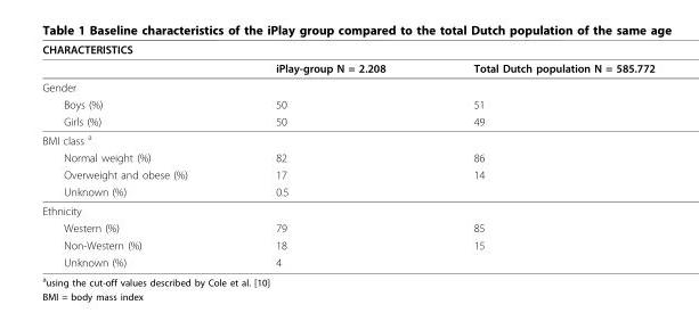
<table><thead><tr><td colspan="3">CHARACTERISTICS</td></tr><tr><td></td><td>iPlay-group N = 2.208</td><td>Total Dutch population N = 585.772</td></tr></thead><tbody><tr><td colspan="3">Gender</td></tr><tr><td>Boys (%)</td><td>50</td><td>51</td></tr><tr><td>Girls (%)</td><td>50</td><td>49</td></tr><tr><td colspan="3">BMI class <sup>a</sup></td></tr><tr><td>Normal weight (%)</td><td>82</td><td>86</td></tr><tr><td>Overweight and obese (%)</td><td>17</td><td>14</td></tr><tr><td>Unknown (%)</td><td>0.5</td><td></td></tr><tr><td colspan="3">Ethnicity</td></tr><tr><td>Western (%)</td><td>79</td><td>85</td></tr><tr><td>Non-Western (%)</td><td>18</td><td>15</td></tr><tr><td>Unknown (%)</td><td>4</td><td></td></tr></tbody></table>